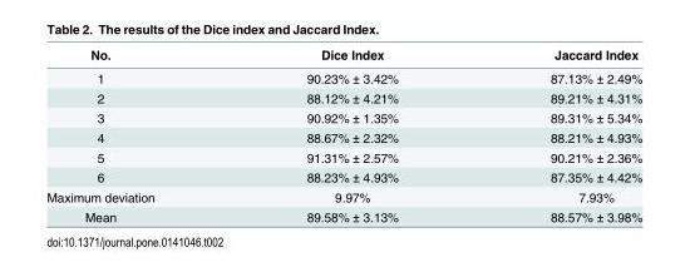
<table><thead><tr><td>No.</td><td>Dice Index</td><td>Jaccard Index</td></tr></thead><tbody><tr><td>1</td><td>90.23% ± 3.42%</td><td>87.13% ± 2.49%</td></tr><tr><td>2</td><td>88.12% ± 4.21%</td><td>89.21% ± 4.31%</td></tr><tr><td>3</td><td>90.92% ± 1.35%</td><td>89.31% ± 5.34%</td></tr><tr><td>4</td><td>88.67% ± 2.32%</td><td>88.21% ± 4.93%</td></tr><tr><td>5</td><td>91.31% ± 2.57%</td><td>90.21% ± 2.36%</td></tr><tr><td>6</td><td>88.23% ± 4.93%</td><td>87.35% ± 4.42%</td></tr><tr><td>Maximum deviation</td><td>9.97%</td><td>7.93%</td></tr><tr><td>Mean</td><td>89.58% ± 3.13%</td><td>88.57% ± 3.98%</td></tr></tbody></table>